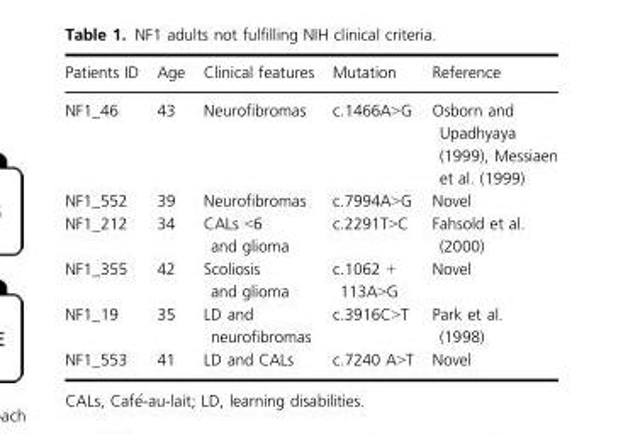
<table><thead><tr><td>Patients ID</td><td>Age</td><td>Clinical features</td><td>Mutation</td><td>Reference</td></tr></thead><tbody><tr><td>NF1_46</td><td>43</td><td>Neurofibromas</td><td>c.1466A&gt;G</td><td>Osborn and Upadhyaya (1999), Messiaen et al. (1999)</td></tr><tr><td>NF1_552</td><td>39</td><td>Neurofibromas</td><td>c.7994A&gt;G</td><td>Novel</td></tr><tr><td>NF1_212</td><td>34</td><td>CALs &lt;6 and glioma</td><td>c.2291T&gt;C</td><td>Fahsold et al. (2000)</td></tr><tr><td>NF1_355</td><td>42</td><td>Scoliosis and glioma</td><td>c.1062 + 113A&gt;G</td><td>Novel</td></tr><tr><td>NF1_19</td><td>35</td><td>LD and neurofibromas</td><td>c.3916C&gt;T</td><td>Park et al. (1998)</td></tr><tr><td>NF1_553</td><td>41</td><td>LD and CALs</td><td>c.7240 A&gt;T</td><td>Novel</td></tr></tbody></table>